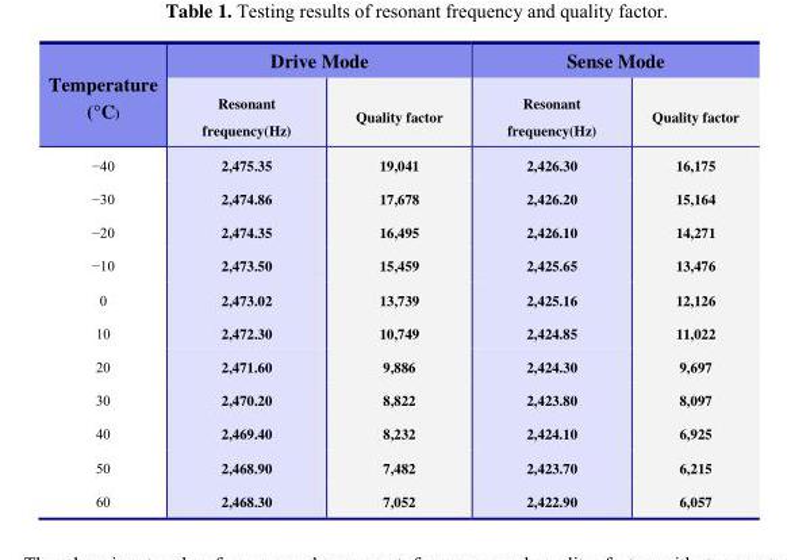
<table><thead><tr><td rowspan="2">Temperature (°C)</td><td colspan="2">Drive Mode</td><td colspan="2">Sense Mode</td></tr><tr><td>Resonant frequency(Hz)</td><td>Quality factor</td><td>Resonant frequency(Hz)</td><td>Quality factor</td></tr></thead><tbody><tr><td>−40</td><td>2,475.35</td><td>19,041</td><td>2,426.30</td><td>16,175</td></tr><tr><td>−30</td><td>2,474.86</td><td>17,678</td><td>2,426.20</td><td>15,164</td></tr><tr><td>−20</td><td>2,474.35</td><td>16,495</td><td>2,426.10</td><td>14,271</td></tr><tr><td>−10</td><td>2,473.50</td><td>15,459</td><td>2,425.65</td><td>13,476</td></tr><tr><td>0</td><td>2,473.02</td><td>13,739</td><td>2,425.16</td><td>12,126</td></tr><tr><td>10</td><td>2,472.30</td><td>10,749</td><td>2,424.85</td><td>11,022</td></tr><tr><td>20</td><td>2,471.60</td><td>9,886</td><td>2,424.30</td><td>9,697</td></tr><tr><td>30</td><td>2,470.20</td><td>8,822</td><td>2,423.80</td><td>8,097</td></tr><tr><td>40</td><td>2,469.40</td><td>8,232</td><td>2,424.10</td><td>6,925</td></tr><tr><td>50</td><td>2,468.90</td><td>7,482</td><td>2,423.70</td><td>6,215</td></tr><tr><td>60</td><td>2,468.30</td><td>7,052</td><td>2,422.90</td><td>6,057</td></tr></tbody></table>